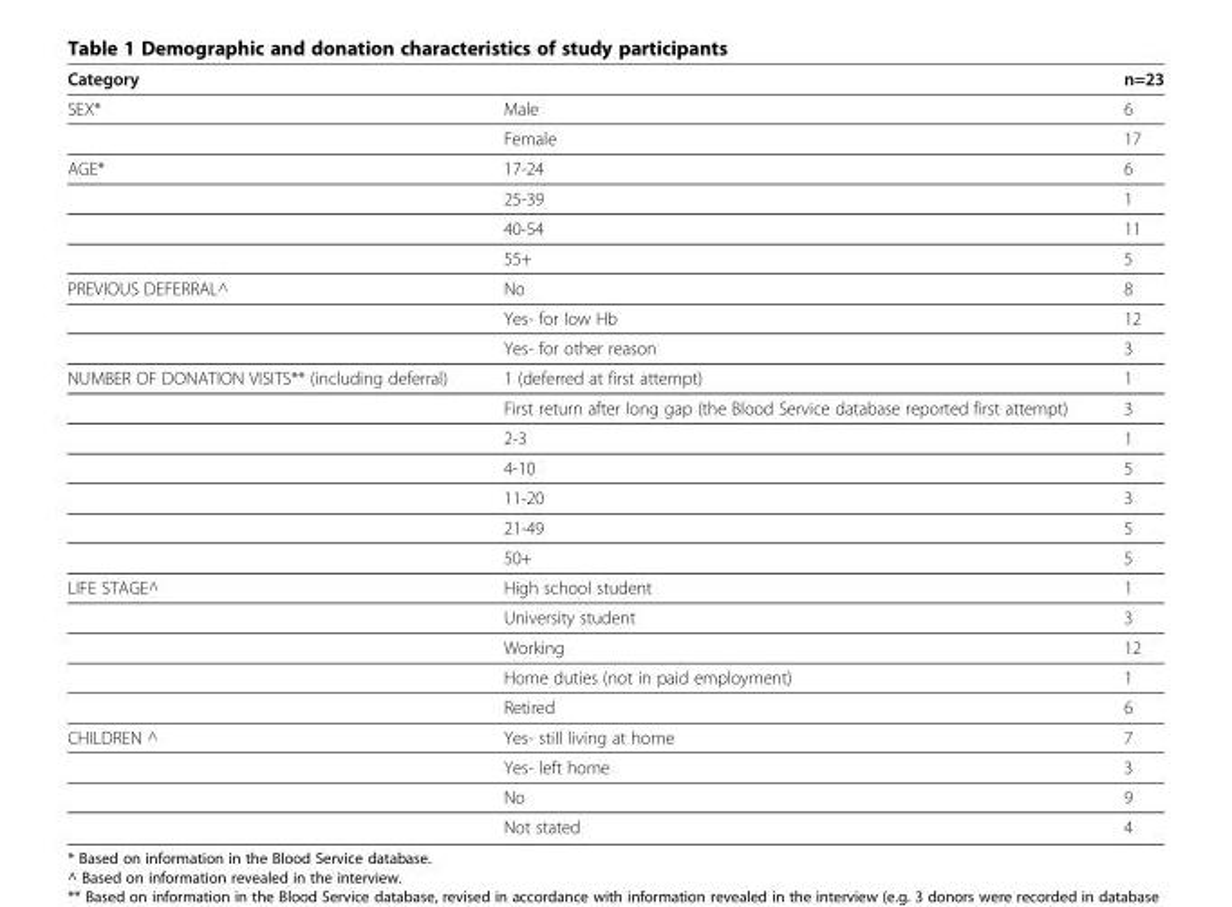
<table><thead><tr><td>Category</td><td></td><td>n=23</td></tr></thead><tbody><tr><td rowspan="2">SEX*</td><td>Male</td><td>6</td></tr><tr><td>Female</td><td>17</td></tr><tr><td rowspan="4">AGE*</td><td>17-24</td><td>6</td></tr><tr><td>25-39</td><td>1</td></tr><tr><td>40-54</td><td>11</td></tr><tr><td>55+</td><td>5</td></tr><tr><td rowspan="3">PREVIOUS DEFERRAL^</td><td>No</td><td>8</td></tr><tr><td>Yes- for low Hb</td><td>12</td></tr><tr><td>Yes- for other reason</td><td>3</td></tr><tr><td rowspan="7">NUMBER OF DONATION VISITS** (including deferral)</td><td>1 (deferred at first attempt)</td><td>1</td></tr><tr><td>First return after long gap (the Blood Service database reported first attempt)</td><td>3</td></tr><tr><td>2-3</td><td>1</td></tr><tr><td>4-10</td><td>5</td></tr><tr><td>11-20</td><td>3</td></tr><tr><td>21-49</td><td>5</td></tr><tr><td>50+</td><td>5</td></tr><tr><td rowspan="5">LIFE STAGE^</td><td>High school student</td><td>1</td></tr><tr><td>University student</td><td>3</td></tr><tr><td>Working</td><td>12</td></tr><tr><td>Home duties (not in paid employment)</td><td>1</td></tr><tr><td>Retired</td><td>6</td></tr><tr><td rowspan="4">CHILDREN ^</td><td>Yes- still living at home</td><td>7</td></tr><tr><td>Yes- left home</td><td>3</td></tr><tr><td>No</td><td>9</td></tr><tr><td>Not stated</td><td>4</td></tr></tbody></table>